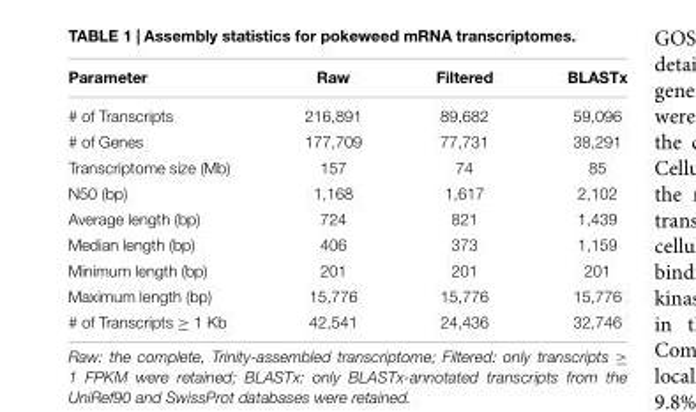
<table><thead><tr><td>Parameter</td><td>Raw</td><td>Filtered</td><td>BLASTx</td></tr></thead><tbody><tr><td># of Transcripts</td><td>216,891</td><td>89,682</td><td>59,096</td></tr><tr><td># of Genes</td><td>177,709</td><td>77,731</td><td>38,291</td></tr><tr><td>Transcriptome size (Mb)</td><td>157</td><td>74</td><td>85</td></tr><tr><td>N50 (bp)</td><td>1,168</td><td>1,617</td><td>2,102</td></tr><tr><td>Average length (bp)</td><td>724</td><td>821</td><td>1,439</td></tr><tr><td>Median length (bp)</td><td>406</td><td>373</td><td>1,159</td></tr><tr><td>Minimum length (bp)</td><td>201</td><td>201</td><td>201</td></tr><tr><td>Maximum length (bp)</td><td>15,776</td><td>15,776</td><td>15,776</td></tr><tr><td># of Transcripts ≥ 1 Kb</td><td>42,541</td><td>24,436</td><td>32,746</td></tr></tbody></table>